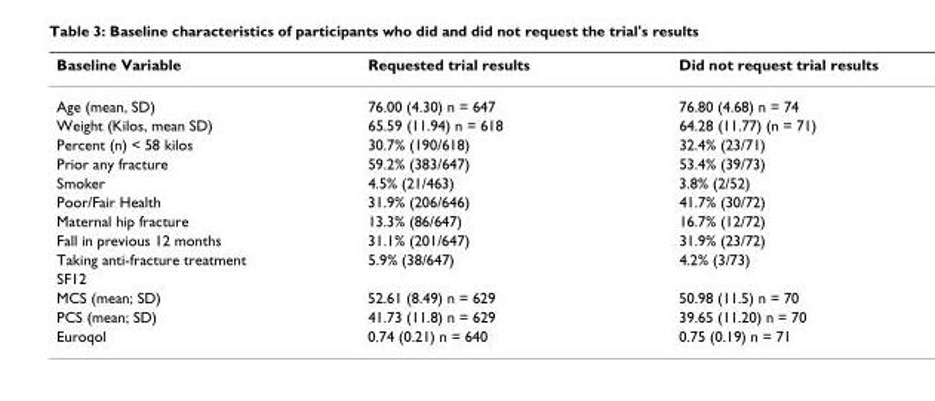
<table><thead><tr><td>Baseline Variable</td><td>Requested trial results</td><td>Did not request trial results</td></tr></thead><tbody><tr><td>Age (mean, SD)</td><td>76.00 (4.30) n = 647</td><td>76.80 (4.68) n = 74</td></tr><tr><td>Weight (Kilos, mean SD)</td><td>65.59 (11.94) n = 618</td><td>64.28 (11.77) (n = 71)</td></tr><tr><td>Percent (n) &lt; 58 kilos</td><td>30.7% (190/618)</td><td>32.4% (23/71)</td></tr><tr><td>Prior any fracture</td><td>59.2% (383/647)</td><td>53.4% (39/73)</td></tr><tr><td>Smoker</td><td>4.5% (21/463)</td><td>3.8% (2/52)</td></tr><tr><td>Poor/Fair Health</td><td>31.9% (206/646)</td><td>41.7% (30/72)</td></tr><tr><td>Maternal hip fracture</td><td>13.3% (86/647)</td><td>16.7% (12/72)</td></tr><tr><td>Fall in previous 12 months</td><td>31.1% (201/647)</td><td>31.9% (23/72)</td></tr><tr><td>Taking anti-fracture treatment</td><td>5.9% (38/647)</td><td>4.2% (3/73)</td></tr><tr><td colspan="3">SF12</td></tr><tr><td>MCS (mean; SD)</td><td>52.61 (8.49) n = 629</td><td>50.98 (11.5) n = 70</td></tr><tr><td>PCS (mean; SD)</td><td>41.73 (11.8) n = 629</td><td>39.65 (11.20) n = 70</td></tr><tr><td>Euroqol</td><td>0.74 (0.21) n = 640</td><td>0.75 (0.19) n = 71</td></tr></tbody></table>